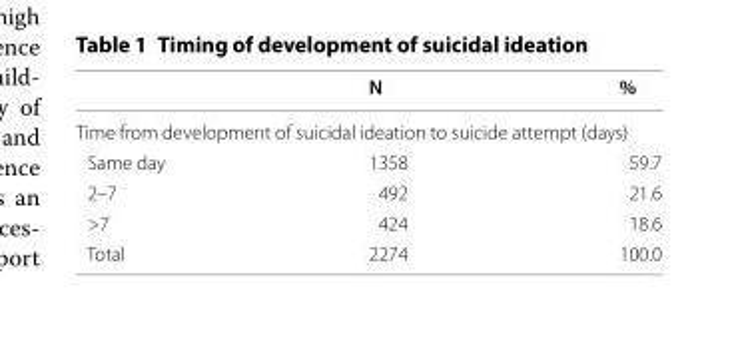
<table><thead><tr><td></td><td>N</td><td>%</td></tr></thead><tbody><tr><td colspan="3">Time from development of suicidal ideation to suicide attempt (days)</td></tr><tr><td>Same day</td><td>1358</td><td>59.7</td></tr><tr><td>2–7</td><td>492</td><td>21.6</td></tr><tr><td>&gt;7</td><td>424</td><td>18.6</td></tr><tr><td>Total</td><td>2274</td><td>100.0</td></tr></tbody></table>